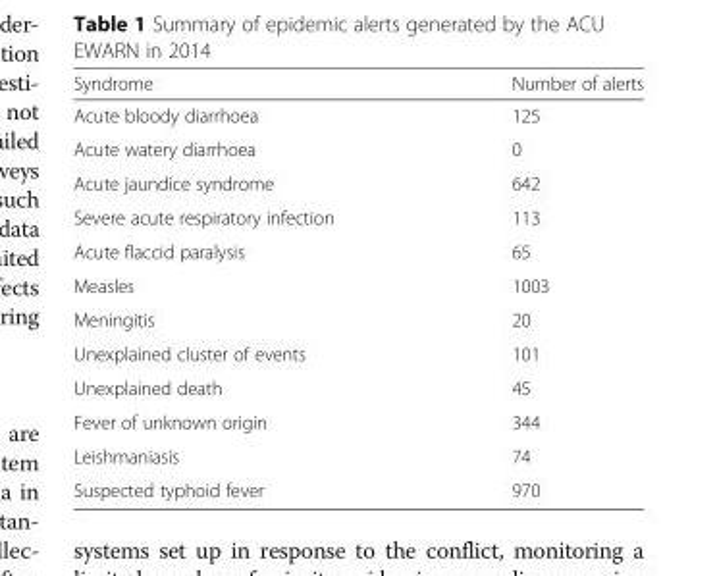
<table><thead><tr><td>Syndrome</td><td>Number of alerts</td></tr></thead><tbody><tr><td>Acute bloody diarrhoea</td><td>125</td></tr><tr><td>Acute watery diarrhoea</td><td>0</td></tr><tr><td>Acute jaundice syndrome</td><td>642</td></tr><tr><td>Severe acute respiratory infection</td><td>113</td></tr><tr><td>Acute flaccid paralysis</td><td>65</td></tr><tr><td>Measles</td><td>1003</td></tr><tr><td>Meningitis</td><td>20</td></tr><tr><td>Unexplained cluster of events</td><td>101</td></tr><tr><td>Unexplained death</td><td>45</td></tr><tr><td>Fever of unknown origin</td><td>344</td></tr><tr><td>Leishmaniasis</td><td>74</td></tr><tr><td>Suspected typhoid fever</td><td>970</td></tr></tbody></table>